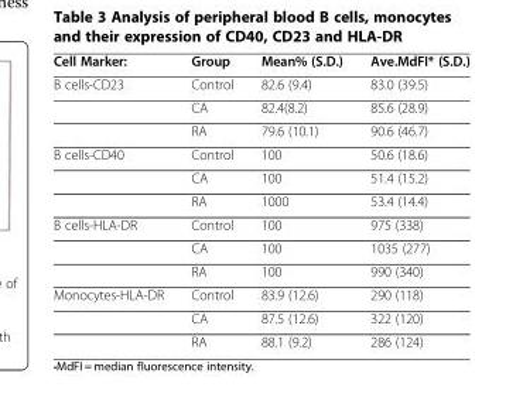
<table><thead><tr><td>Cell Marker:</td><td>Group</td><td>Mean% (S.D.)</td><td>Ave.MdFI* (S.D.)</td></tr></thead><tbody><tr><td rowspan="3">B cells-CD23</td><td>Control</td><td>82.6 (9.4)</td><td>83.0 (39.5)</td></tr><tr><td>CA</td><td>82.4(8.2)</td><td>85.6 (28.9)</td></tr><tr><td>RA</td><td>79.6 (10.1)</td><td>90.6 (46.7)</td></tr><tr><td rowspan="3">B cells-CD40</td><td>Control</td><td>100</td><td>50.6 (18.6)</td></tr><tr><td>CA</td><td>100</td><td>51.4 (15.2)</td></tr><tr><td>RA</td><td>1000</td><td>53.4 (14.4)</td></tr><tr><td rowspan="3">B cells-HLA-DR</td><td>Control</td><td>100</td><td>975 (338)</td></tr><tr><td>CA</td><td>100</td><td>1035 (277)</td></tr><tr><td>RA</td><td>100</td><td>990 (340)</td></tr><tr><td rowspan="3">Monocytes-HLA-DR</td><td>Control</td><td>83.9 (12.6)</td><td>290 (118)</td></tr><tr><td>CA</td><td>87.5 (12.6)</td><td>322 (120)</td></tr><tr><td>RA</td><td>88.1 (9.2)</td><td>286 (124)</td></tr></tbody></table>